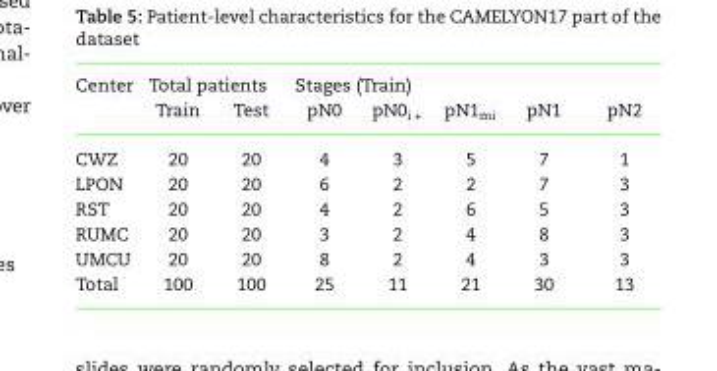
<table><thead><tr><td rowspan="2">Center</td><td colspan="2">Total patients</td><td colspan="5">Stages (Train)</td></tr><tr><td>Train</td><td>Test</td><td>pN0</td><td>pN0<sub>i +</sub></td><td>pN1<sub>mi</sub></td><td>pN1</td><td>pN2</td></tr></thead><tbody><tr><td>CWZ</td><td>20</td><td>20</td><td>4</td><td>3</td><td>5</td><td>7</td><td>1</td></tr><tr><td>LPON</td><td>20</td><td>20</td><td>6</td><td>2</td><td>2</td><td>7</td><td>3</td></tr><tr><td>RST</td><td>20</td><td>20</td><td>4</td><td>2</td><td>6</td><td>5</td><td>3</td></tr><tr><td>RUMC</td><td>20</td><td>20</td><td>3</td><td>2</td><td>4</td><td>8</td><td>3</td></tr><tr><td>UMCU</td><td>20</td><td>20</td><td>8</td><td>2</td><td>4</td><td>3</td><td>3</td></tr><tr><td>Total</td><td>100</td><td>100</td><td>25</td><td>11</td><td>21</td><td>30</td><td>13</td></tr></tbody></table>